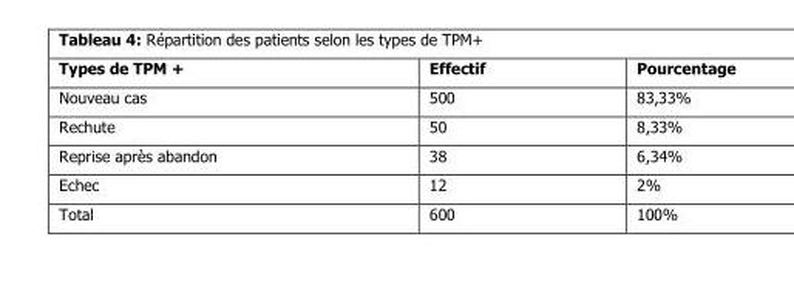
<table><thead><tr><td>Types de TPM +</td><td>Effectif</td><td>Pourcentage</td></tr></thead><tbody><tr><td>Nouveau cas</td><td>500</td><td>83,33%</td></tr><tr><td>Rechute</td><td>50</td><td>8,33%</td></tr><tr><td>Reprise après abandon</td><td>38</td><td>6,34%</td></tr><tr><td>Echec</td><td>12</td><td>2%</td></tr><tr><td>Total</td><td>600</td><td>100%</td></tr></tbody></table>